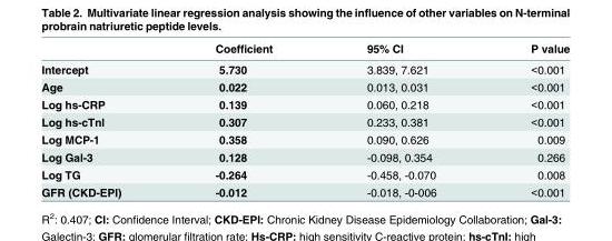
<table><thead><tr><td></td><td>Coefficient</td><td>95% CI</td><td>P value</td></tr></thead><tbody><tr><td>Intercept</td><td>5.730</td><td>3.839, 7.621</td><td>&lt;0.001</td></tr><tr><td>Age</td><td>0.022</td><td>0.013, 0.031</td><td>&lt;0.001</td></tr><tr><td>Log hs-CRP</td><td>0.139</td><td>0.060, 0.218</td><td>&lt;0.001</td></tr><tr><td>Log hs-cTnl</td><td>0.307</td><td>0.233, 0.381</td><td>&lt;0.001</td></tr><tr><td>Log MCP-1</td><td>0.358</td><td>0.090, 0.626</td><td>0.009</td></tr><tr><td>Log Gal-3</td><td>0.128</td><td>-0.098, 0.354</td><td>0.266</td></tr><tr><td>Log TG</td><td>-0.264</td><td>-0.458, -0.070</td><td>0.008</td></tr><tr><td>GFR (CKD-EPI)</td><td>-0.012</td><td>-0.018, -0-006</td><td>&lt;0.001</td></tr></tbody></table>